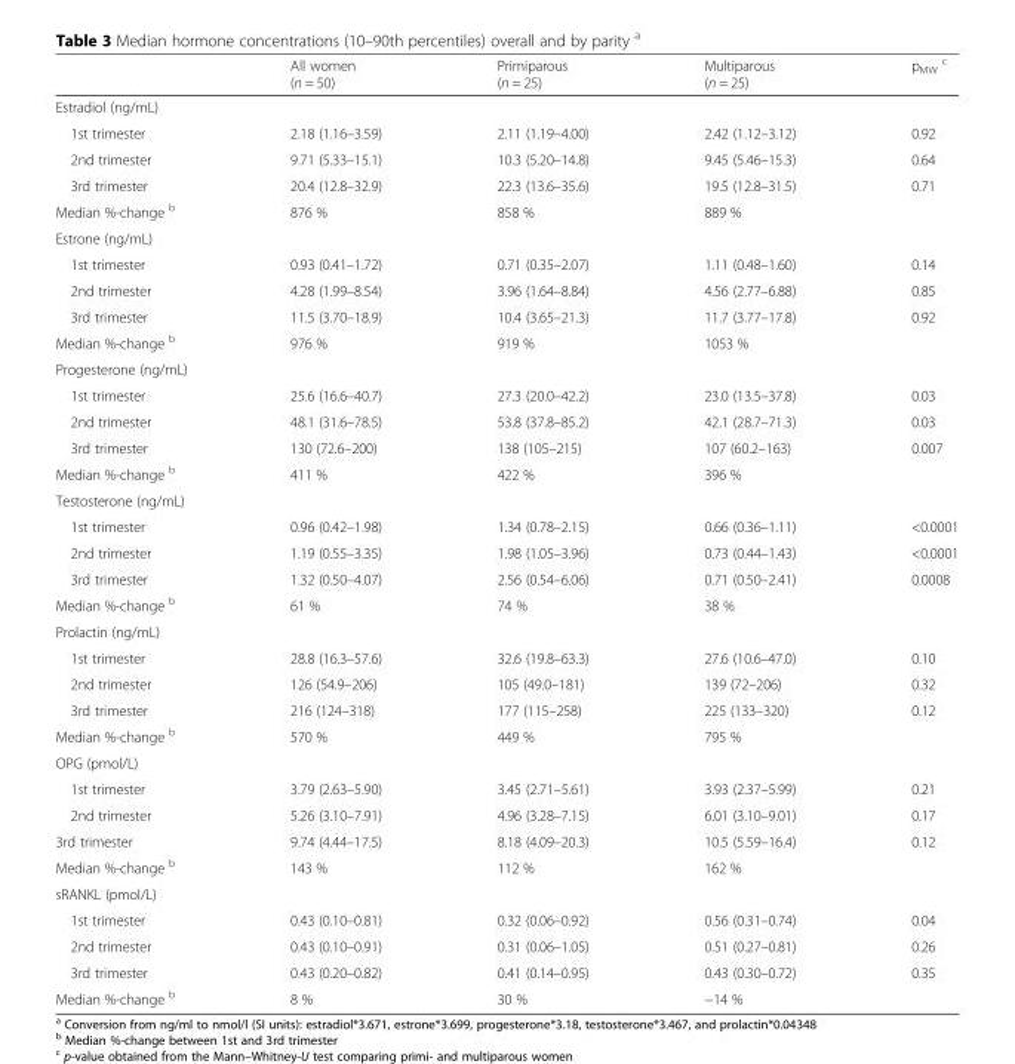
<table><thead><tr><td></td><td>All women (n = 50)</td><td>Primiparous (n = 25)</td><td>Multiparous (n = 25)</td><td>p<sub>MW</sub> <sup>c</sup></td></tr></thead><tbody><tr><td colspan="5">Estradiol (ng/mL)</td></tr><tr><td>1st trimester</td><td>2.18 (1.16–3.59)</td><td>2.11 (1.19–4.00)</td><td>2.42 (1.12–3.12)</td><td>0.92</td></tr><tr><td>2nd trimester</td><td>9.71 (5.33–15.1)</td><td>10.3 (5.20–14.8)</td><td>9.45 (5.46–15.3)</td><td>0.64</td></tr><tr><td>3rd trimester</td><td>20.4 (12.8–32.9)</td><td>22.3 (13.6–35.6)</td><td>19.5 (12.8–31.5)</td><td>0.71</td></tr><tr><td>Median %-change <sup>b</sup></td><td>876 %</td><td>858 %</td><td>889 %</td><td></td></tr><tr><td colspan="5">Estrone (ng/mL)</td></tr><tr><td>1st trimester</td><td>0.93 (0.41–1.72)</td><td>0.71 (0.35–2.07)</td><td>1.11 (0.48–1.60)</td><td>0.14</td></tr><tr><td>2nd trimester</td><td>4.28 (1.99–8.54)</td><td>3.96 (1.64–8.84)</td><td>4.56 (2.77–6.88)</td><td>0.85</td></tr><tr><td>3rd trimester</td><td>11.5 (3.70–18.9)</td><td>10.4 (3.65–21.3)</td><td>11.7 (3.77–17.8)</td><td>0.92</td></tr><tr><td>Median %-change <sup>b</sup></td><td>976 %</td><td>919 %</td><td>1053 %</td><td></td></tr><tr><td colspan="5">Progesterone (ng/mL)</td></tr><tr><td>1st trimester</td><td>25.6 (16.6–40.7)</td><td>27.3 (20.0–42.2)</td><td>23.0 (13.5–37.8)</td><td>0.03</td></tr><tr><td>2nd trimester</td><td>48.1 (31.6–78.5)</td><td>53.8 (37.8–85.2)</td><td>42.1 (28.7–71.3)</td><td>0.03</td></tr><tr><td>3rd trimester</td><td>130 (72.6–200)</td><td>138 (105–215)</td><td>107 (60.2–163)</td><td>0.007</td></tr><tr><td>Median %-change <sup>b</sup></td><td>411 %</td><td>422 %</td><td>396 %</td><td></td></tr><tr><td colspan="5">Testosterone (ng/mL)</td></tr><tr><td>1st trimester</td><td>0.96 (0.42–1.98)</td><td>1.34 (0.78–2.15)</td><td>0.66 (0.36–1.11)</td><td>&lt;0.0001</td></tr><tr><td>2nd trimester</td><td>1.19 (0.55–3.35)</td><td>1.98 (1.05–3.96)</td><td>0.73 (0.44–1.43)</td><td>&lt;0.0001</td></tr><tr><td>3rd trimester</td><td>1.32 (0.50–4.07)</td><td>2.56 (0.54–6.06)</td><td>0.71 (0.50–2.41)</td><td>0.0008</td></tr><tr><td>Median %-change <sup>b</sup></td><td>61 %</td><td>74 %</td><td>38 %</td><td></td></tr><tr><td colspan="5">Prolactin (ng/mL)</td></tr><tr><td>1st trimester</td><td>28.8 (16.3–57.6)</td><td>32.6 (19.8–63.3)</td><td>27.6 (10.6–47.0)</td><td>0.10</td></tr><tr><td>2nd trimester</td><td>126 (54.9–206)</td><td>105 (49.0–181)</td><td>139 (72–206)</td><td>0.32</td></tr><tr><td>3rd trimester</td><td>216 (124–318)</td><td>177 (115–258)</td><td>225 (133–320)</td><td>0.12</td></tr><tr><td>Median %-change <sup>b</sup></td><td>570 %</td><td>449 %</td><td>795 %</td><td></td></tr><tr><td colspan="5">OPG (pmol/L)</td></tr><tr><td>1st trimester</td><td>3.79 (2.63–5.90)</td><td>3.45 (2.71–5.61)</td><td>3.93 (2.37–5.99)</td><td>0.21</td></tr><tr><td>2nd trimester</td><td>5.26 (3.10–7.91)</td><td>4.96 (3.28–7.15)</td><td>6.01 (3.10–9.01)</td><td>0.17</td></tr><tr><td>3rd trimester</td><td>9.74 (4.44–17.5)</td><td>8.18 (4.09–20.3)</td><td>10.5 (5.59–16.4)</td><td>0.12</td></tr><tr><td>Median %-change <sup>b</sup></td><td>143 %</td><td>112 %</td><td>162 %</td><td></td></tr><tr><td colspan="5">sRANKL (pmol/L)</td></tr><tr><td>1st trimester</td><td>0.43 (0.10–0.81)</td><td>0.32 (0.06–0.92)</td><td>0.56 (0.31–0.74)</td><td>0.04</td></tr><tr><td>2nd trimester</td><td>0.43 (0.10–0.91)</td><td>0.31 (0.06–1.05)</td><td>0.51 (0.27–0.81)</td><td>0.26</td></tr><tr><td>3rd trimester</td><td>0.43 (0.20–0.82)</td><td>0.41 (0.14–0.95)</td><td>0.43 (0.30–0.72)</td><td>0.35</td></tr><tr><td>Median %-change <sup>b</sup></td><td>8 %</td><td>30 %</td><td>−14 %</td><td></td></tr></tbody></table>